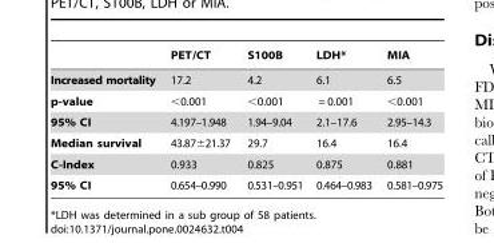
<table><thead><tr><td></td><td>PET/CT</td><td>S100B</td><td>LDH*</td><td>MIA</td></tr></thead><tbody><tr><td>Increased mortality</td><td>17.2</td><td>4.2</td><td>6.1</td><td>6.5</td></tr><tr><td>p-value</td><td>&lt;0.001</td><td>&lt;0.001</td><td>= 0.001</td><td>&lt;0.001</td></tr><tr><td>95% CI</td><td>4.197–1.948</td><td>1.94–9.04</td><td>2.1–17.6</td><td>2.95–14.3</td></tr><tr><td>Median survival</td><td>43.87±21.37</td><td>29.7</td><td>16.4</td><td>16.4</td></tr><tr><td>C-Index</td><td>0.933</td><td>0.825</td><td>0.875</td><td>0.881</td></tr><tr><td>95% CI</td><td>0.654–0.990</td><td>0.531–0.951</td><td>0.464–0.983</td><td>0.581–0.975</td></tr></tbody></table>